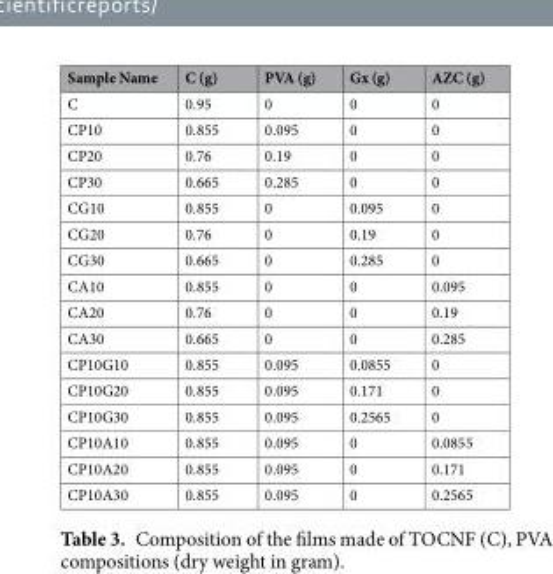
<table><thead><tr><td>Sample Name</td><td>C (g)</td><td>PVA (g)</td><td>Gx (g)</td><td>AZC (g)</td></tr></thead><tbody><tr><td>C</td><td>0.95</td><td>0</td><td>0</td><td>0</td></tr><tr><td>CP10</td><td>0.855</td><td>0.095</td><td>0</td><td>0</td></tr><tr><td>CP20</td><td>0.76</td><td>0.19</td><td>0</td><td>0</td></tr><tr><td>CP30</td><td>0.665</td><td>0.285</td><td>0</td><td>0</td></tr><tr><td>CG10</td><td>0.855</td><td>0</td><td>0.095</td><td>0</td></tr><tr><td>CG20</td><td>0.76</td><td>0</td><td>0.19</td><td>0</td></tr><tr><td>CG30</td><td>0.665</td><td>0</td><td>0.285</td><td>0</td></tr><tr><td>CA10</td><td>0.855</td><td>0</td><td>0</td><td>0.095</td></tr><tr><td>CA20</td><td>0.76</td><td>0</td><td>0</td><td>0.19</td></tr><tr><td>CA30</td><td>0.665</td><td>0</td><td>0</td><td>0.285</td></tr><tr><td>CP10G10</td><td>0.855</td><td>0.095</td><td>0.0855</td><td>0</td></tr><tr><td>CP10G20</td><td>0.855</td><td>0.095</td><td>0.171</td><td>0</td></tr><tr><td>CP10G30</td><td>0.855</td><td>0.095</td><td>0.2565</td><td>0</td></tr><tr><td>CP10A10</td><td>0.855</td><td>0.095</td><td>0</td><td>0.0855</td></tr><tr><td>CP10A20</td><td>0.855</td><td>0.095</td><td>0</td><td>0.171</td></tr><tr><td>CP10A30</td><td>0.855</td><td>0.095</td><td>0</td><td>0.2565</td></tr></tbody></table>